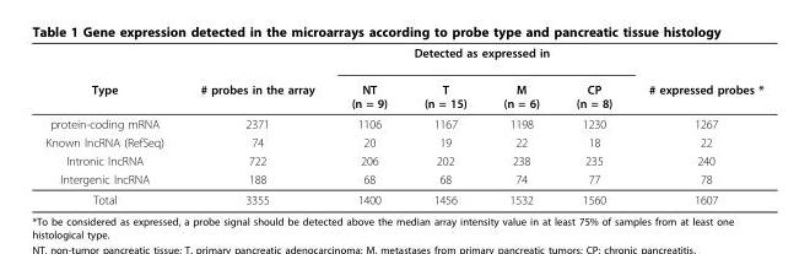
<table><thead><tr><td rowspan="2">Type</td><td rowspan="2"># probes in the array</td><td colspan="4">Detected as expressed in</td><td rowspan="2"># expressed probes *</td></tr><tr><td>NT (n = 9)</td><td>T (n = 15)</td><td>M (n = 6)</td><td>CP (n = 8)</td></tr></thead><tbody><tr><td>protein-coding mRNA</td><td>2371</td><td>1106</td><td>1167</td><td>1198</td><td>1230</td><td>1267</td></tr><tr><td>Known lncRNA (RefSeq)</td><td>74</td><td>20</td><td>19</td><td>22</td><td>18</td><td>22</td></tr><tr><td>Intronic lncRNA</td><td>722</td><td>206</td><td>202</td><td>238</td><td>235</td><td>240</td></tr><tr><td>Intergenic lncRNA</td><td>188</td><td>68</td><td>68</td><td>74</td><td>77</td><td>78</td></tr><tr><td>Total</td><td>3355</td><td>1400</td><td>1456</td><td>1532</td><td>1560</td><td>1607</td></tr></tbody></table>